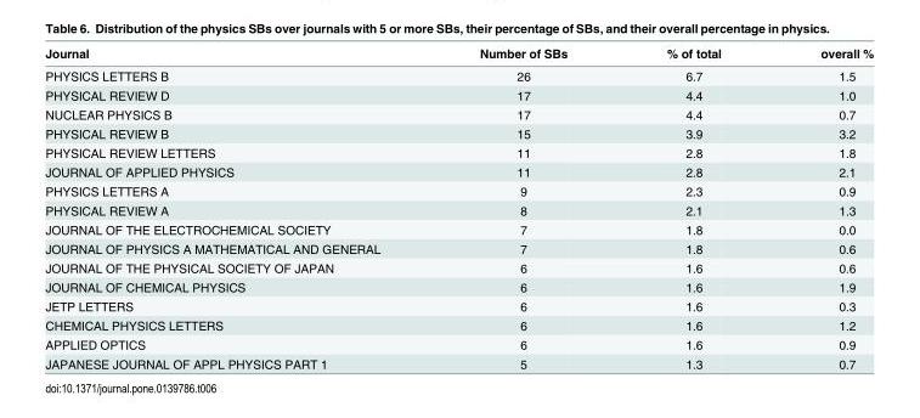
<table><thead><tr><td>Journal</td><td>Number of SBs</td><td>% of total</td><td>overall %</td></tr></thead><tbody><tr><td>PHYSICS LETTERS B</td><td>26</td><td>6.7</td><td>1.5</td></tr><tr><td>PHYSICAL REVIEW D</td><td>17</td><td>4.4</td><td>1.0</td></tr><tr><td>NUCLEAR PHYSICS B</td><td>17</td><td>4.4</td><td>0.7</td></tr><tr><td>PHYSICAL REVIEW B</td><td>15</td><td>3.9</td><td>3.2</td></tr><tr><td>PHYSICAL REVIEW LETTERS</td><td>11</td><td>2.8</td><td>1.8</td></tr><tr><td>JOURNAL OF APPLIED PHYSICS</td><td>11</td><td>2.8</td><td>2.1</td></tr><tr><td>PHYSICS LETTERS A</td><td>9</td><td>2.3</td><td>0.9</td></tr><tr><td>PHYSICAL REVIEW A</td><td>8</td><td>2.1</td><td>1.3</td></tr><tr><td>JOURNAL OF THE ELECTROCHEMICAL SOCIETY</td><td>7</td><td>1.8</td><td>0.0</td></tr><tr><td>JOURNAL OF PHYSICS A MATHEMATICAL AND GENERAL</td><td>7</td><td>1.8</td><td>0.6</td></tr><tr><td>JOURNAL OF THE PHYSICAL SOCIETY OF JAPAN</td><td>6</td><td>1.6</td><td>0.6</td></tr><tr><td>JOURNAL OF CHEMICAL PHYSICS</td><td>6</td><td>1.6</td><td>1.9</td></tr><tr><td>JETP LETTERS</td><td>6</td><td>1.6</td><td>0.3</td></tr><tr><td>CHEMICAL PHYSICS LETTERS</td><td>6</td><td>1.6</td><td>1.2</td></tr><tr><td>APPLIED OPTICS</td><td>6</td><td>1.6</td><td>0.9</td></tr><tr><td>JAPANESE JOURNAL OF APPL PHYSICS PART 1</td><td>5</td><td>1.3</td><td>0.7</td></tr></tbody></table>